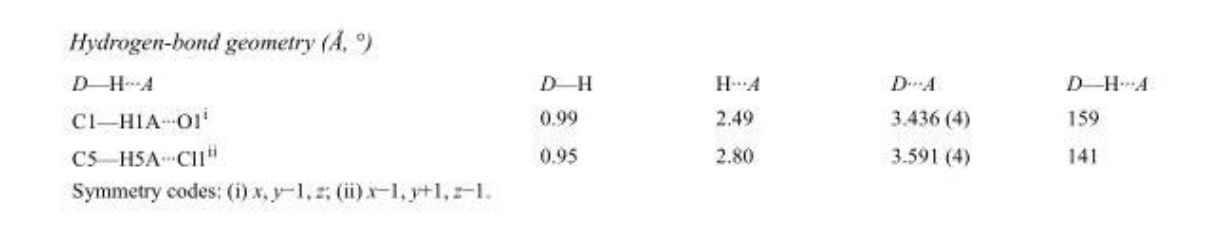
<table><tbody><tr><td>D—H···A</td><td>D—H</td><td>H···A</td><td>D···A</td><td>D—H···A</td></tr><tr><td>C1—H1A···O1<sup>i</sup></td><td>0.99</td><td>2.49</td><td>3.436 (4)</td><td>159</td></tr><tr><td>C5—H5A···Cl1<sup>ii</sup></td><td>0.95</td><td>2.80</td><td>3.591 (4)</td><td>141</td></tr></tbody></table>